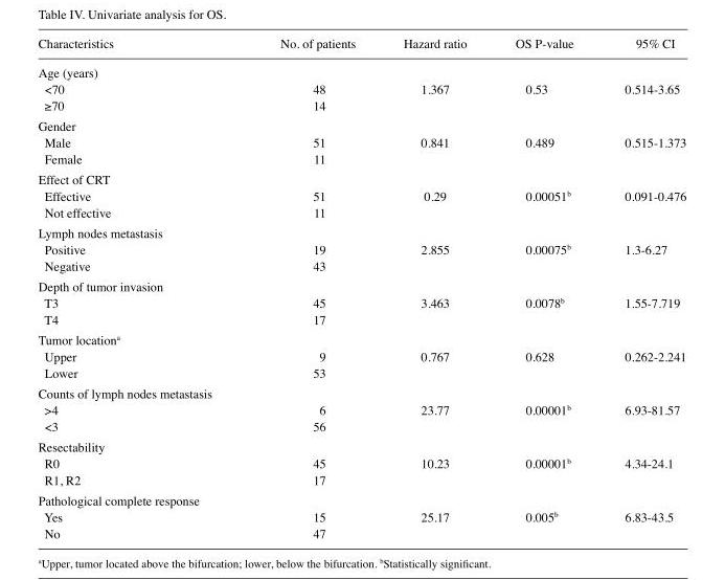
<table><thead><tr><td>Characteristics</td><td>No. of patients</td><td>Hazard ratio</td><td>OS P-value</td><td>95% CI</td></tr></thead><tbody><tr><td colspan="5">Age (years)</td></tr><tr><td>&lt;70</td><td>48</td><td>1.367</td><td>0.53</td><td>0.514-3.65</td></tr><tr><td>≥70</td><td>14</td><td></td><td></td><td></td></tr><tr><td colspan="5">Gender</td></tr><tr><td>Male</td><td>51</td><td>0.841</td><td>0.489</td><td>0.515-1.373</td></tr><tr><td>Female</td><td>11</td><td></td><td></td><td></td></tr><tr><td colspan="5">Effect of CRT</td></tr><tr><td>Effective</td><td>51</td><td>0.29</td><td>0.00051<sup>b</sup></td><td>0.091-0.476</td></tr><tr><td>Not effective</td><td>11</td><td></td><td></td><td></td></tr><tr><td colspan="5">Lymph nodes metastasis</td></tr><tr><td>Positive</td><td>19</td><td>2.855</td><td>0.00075<sup>b</sup></td><td>1.3-6.27</td></tr><tr><td>Negative</td><td>43</td><td></td><td></td><td></td></tr><tr><td colspan="5">Depth of tumor invasion</td></tr><tr><td>T3</td><td>45</td><td>3.463</td><td>0.0078<sup>b</sup></td><td>1.55-7.719</td></tr><tr><td>T4</td><td>17</td><td></td><td></td><td></td></tr><tr><td colspan="5">Tumor location<sup>a</sup></td></tr><tr><td>Upper</td><td>9</td><td>0.767</td><td>0.628</td><td>0.262-2.241</td></tr><tr><td>Lower</td><td>53</td><td></td><td></td><td></td></tr><tr><td colspan="5">Counts of lymph nodes metastasis</td></tr><tr><td>&gt;4</td><td>6</td><td>23.77</td><td>0.00001<sup>b</sup></td><td>6.93-81.57</td></tr><tr><td>&lt;3</td><td>56</td><td></td><td></td><td></td></tr><tr><td colspan="5">Resectability</td></tr><tr><td>R0</td><td>45</td><td>10.23</td><td>0.00001<sup>b</sup></td><td>4.34-24.1</td></tr><tr><td>R1, R2</td><td>17</td><td></td><td></td><td></td></tr><tr><td colspan="5">Pathological complete response</td></tr><tr><td>Yes</td><td>15</td><td>25.17</td><td>0.005<sup>b</sup></td><td>6.83-43.5</td></tr><tr><td>No</td><td>47</td><td></td><td></td><td></td></tr></tbody></table>